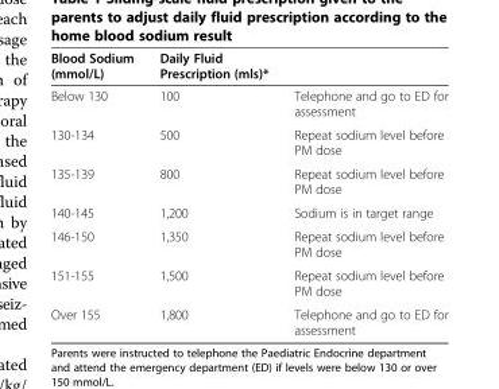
<table><thead><tr><td>Blood Sodium (mmol/L)</td><td>Daily Fluid Prescription (mls)*</td><td></td></tr></thead><tbody><tr><td>Below 130</td><td>100</td><td>Telephone and go to ED for assessment</td></tr><tr><td>130-134</td><td>500</td><td>Repeat sodium level before PM dose</td></tr><tr><td>135-139</td><td>800</td><td>Repeat sodium level before PM dose</td></tr><tr><td>140-145</td><td>1,200</td><td>Sodium is in target range</td></tr><tr><td>146-150</td><td>1,350</td><td>Repeat sodium level before PM dose</td></tr><tr><td>151-155</td><td>1,500</td><td>Repeat sodium level before PM dose</td></tr><tr><td>Over 155</td><td>1,800</td><td>Telephone and go to ED for assessment</td></tr></tbody></table>